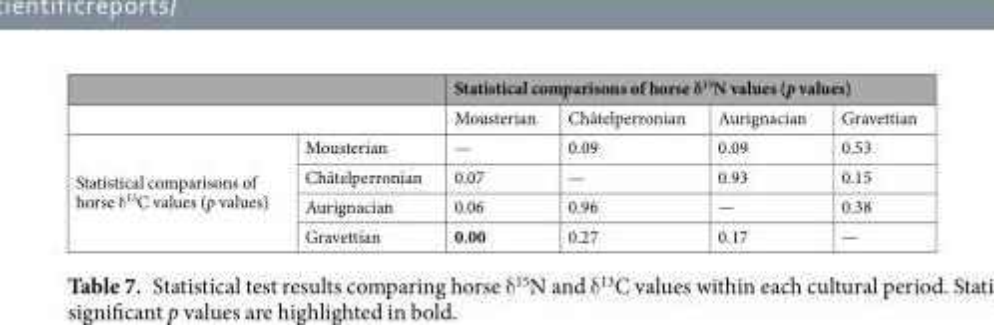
<table><thead><tr><td></td><td></td><td colspan="4">Statistical comparisons of horse δ<sup>15</sup>N values (p values)</td></tr><tr><td colspan="2"></td><td>Mousterian</td><td>Châtelperronian</td><td>Aurignacian</td><td>Gravettian</td></tr></thead><tbody><tr><td rowspan="4">Statistical comparisons of horse δ<sup>13</sup>C values (p values)</td><td>Mousterian</td><td>—</td><td>0.09</td><td>0.09</td><td>0.53</td></tr><tr><td>Châtelperronian</td><td>0.07</td><td>—</td><td>0.93</td><td>0.15</td></tr><tr><td>Aurignacian</td><td>0.06</td><td>0.96</td><td>—</td><td>0.38</td></tr><tr><td>Gravettian</td><td>0.00</td><td>0.27</td><td>0.17</td><td>—</td></tr></tbody></table>